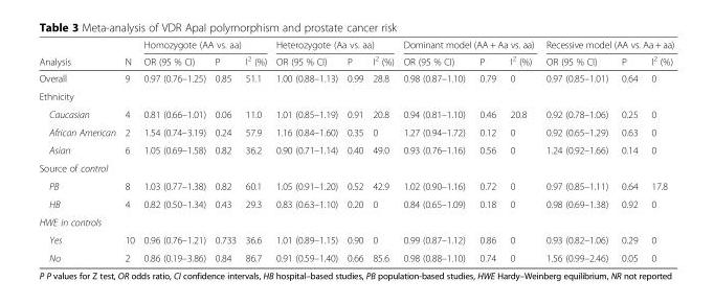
<table><thead><tr><td rowspan="2">Analysis</td><td rowspan="2">N</td><td colspan="3">Homozygote (AA vs. aa)</td><td colspan="3">Heterozygote (Aa vs. aa)</td><td colspan="3">Dominant model (AA + Aa vs. aa)</td><td colspan="3">Recessive model (AA vs. Aa + aa)</td></tr><tr><td>OR (95 % CI)</td><td>P</td><td>I<sup>2</sup> (%)</td><td>OR (95 % CI)</td><td>P</td><td>I<sup>2</sup> (%)</td><td>OR (95 % CI)</td><td>P</td><td>I<sup>2</sup> (%)</td><td>OR (95 % CI)</td><td>P</td><td>I<sup>2</sup> (%)</td></tr></thead><tbody><tr><td>Overall</td><td>9</td><td>0.97 (0.76–1.25)</td><td>0.85</td><td>51.1</td><td>1.00 (0.88–1.13)</td><td>0.99</td><td>28.8</td><td>0.98 (0.87–1.10)</td><td>0.79</td><td>0</td><td>0.97 (0.85–1.01)</td><td>0.64</td><td>0</td></tr><tr><td colspan="14">Ethnicity</td></tr><tr><td>Caucasian</td><td>4</td><td>0.81 (0.66–1.01)</td><td>0.06</td><td>11.0</td><td>1.01 (0.85–1.19)</td><td>0.91</td><td>20.8</td><td>0.94 (0.81–1.10)</td><td>0.46</td><td>20.8</td><td>0.92 (0.78–1.06)</td><td>0.25</td><td>0</td></tr><tr><td>African American</td><td>2</td><td>1.54 (0.74–3.19)</td><td>0.24</td><td>57.9</td><td>1.16 (0.84–1.60)</td><td>0.35</td><td>0</td><td>1.27 (0.94–1.72)</td><td>0.12</td><td>0</td><td>0.92 (0.65–1.29)</td><td>0.63</td><td>0</td></tr><tr><td>Asian</td><td>6</td><td>1.05 (0.69–1.58)</td><td>0.82</td><td>36.2</td><td>0.90 (0.71–1.14)</td><td>0.40</td><td>49.0</td><td>0.93 (0.76–1.16)</td><td>0.56</td><td>0</td><td>1.24 (0.92–1.66)</td><td>0.14</td><td>0</td></tr><tr><td colspan="14">Source of control</td></tr><tr><td>PB</td><td>8</td><td>1.03 (0.77–1.38)</td><td>0.82</td><td>60.1</td><td>1.05 (0.91–1.20)</td><td>0.52</td><td>42.9</td><td>1.02 (0.90–1.16)</td><td>0.72</td><td>0</td><td>0.97 (0.85–1.11)</td><td>0.64</td><td>17.8</td></tr><tr><td>HB</td><td>4</td><td>0.82 (0.50–1.34)</td><td>0.43</td><td>29.3</td><td>0.83 (0.63–1.10)</td><td>0.20</td><td>0</td><td>0.84 (0.65–1.09)</td><td>0.18</td><td>0</td><td>0.98 (0.69–1.38)</td><td>0.92</td><td>0</td></tr><tr><td colspan="14">HWE in controls</td></tr><tr><td>Yes</td><td>10</td><td>0.96 (0.76–1.21)</td><td>0.733</td><td>36.6</td><td>1.01 (0.89–1.15)</td><td>0.90</td><td>0</td><td>0.99 (0.87–1.12)</td><td>0.86</td><td>0</td><td>0.93 (0.82–1.06)</td><td>0.29</td><td>0</td></tr><tr><td>No</td><td>2</td><td>0.86 (0.19–3.86)</td><td>0.84</td><td>86.7</td><td>0.91 (0.59–1.40)</td><td>0.66</td><td>85.6</td><td>0.98 (0.88–1.10)</td><td>0.74</td><td>0</td><td>1.56 (0.99–2.46)</td><td>0.05</td><td>0</td></tr></tbody></table>